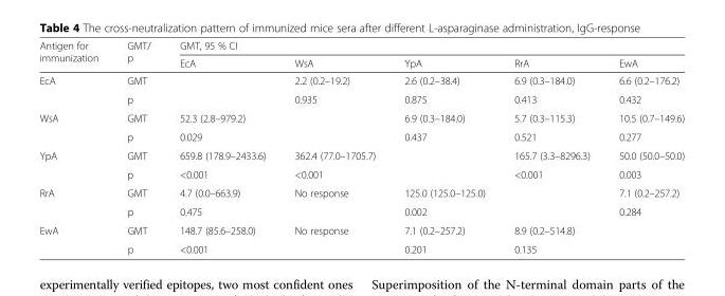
<table><thead><tr><td rowspan="2">Antigen for immunization</td><td rowspan="2">GMT/ p</td><td colspan="5">GMT, 95 % CI</td></tr><tr><td>EcA</td><td>WsA</td><td>YpA</td><td>RrA</td><td>EwA</td></tr></thead><tbody><tr><td rowspan="2">EcA</td><td>GMT</td><td></td><td>2.2 (0.2–19.2)</td><td>2.6 (0.2–38.4)</td><td>6.9 (0.3–184.0)</td><td>6.6 (0.2–176.2)</td></tr><tr><td>p</td><td></td><td>0.935</td><td>0.875</td><td>0.413</td><td>0.432</td></tr><tr><td rowspan="2">WsA</td><td>GMT</td><td>52.3 (2.8–979.2)</td><td></td><td>6.9 (0.3–184.0)</td><td>5.7 (0.3–115.3)</td><td>10.5 (0.7–149.6)</td></tr><tr><td>p</td><td>0.029</td><td></td><td>0.437</td><td>0.521</td><td>0.277</td></tr><tr><td rowspan="2">YpA</td><td>GMT</td><td>659.8 (178.9–2433.6)</td><td>362.4 (77.0–1705.7)</td><td></td><td>165.7 (3.3–8296.3)</td><td>50.0 (50.0–50.0)</td></tr><tr><td>p</td><td>&lt;0.001</td><td>&lt;0.001</td><td></td><td>&lt;0.001</td><td>0.003</td></tr><tr><td rowspan="2">RrA</td><td>GMT</td><td>4.7 (0.0–663.9)</td><td rowspan="2">No response</td><td>125.0 (125.0–125.0)</td><td></td><td>7.1 (0.2–257.2)</td></tr><tr><td>p</td><td>0.475</td><td>0.002</td><td></td><td>0.284</td></tr><tr><td rowspan="2">EwA</td><td>GMT</td><td>148.7 (85.6–258.0)</td><td rowspan="2">No response</td><td>7.1 (0.2–257.2)</td><td>8.9 (0.2–514.8)</td><td></td></tr><tr><td>p</td><td>&lt;0.001</td><td>0.201</td><td>0.135</td><td></td></tr></tbody></table>